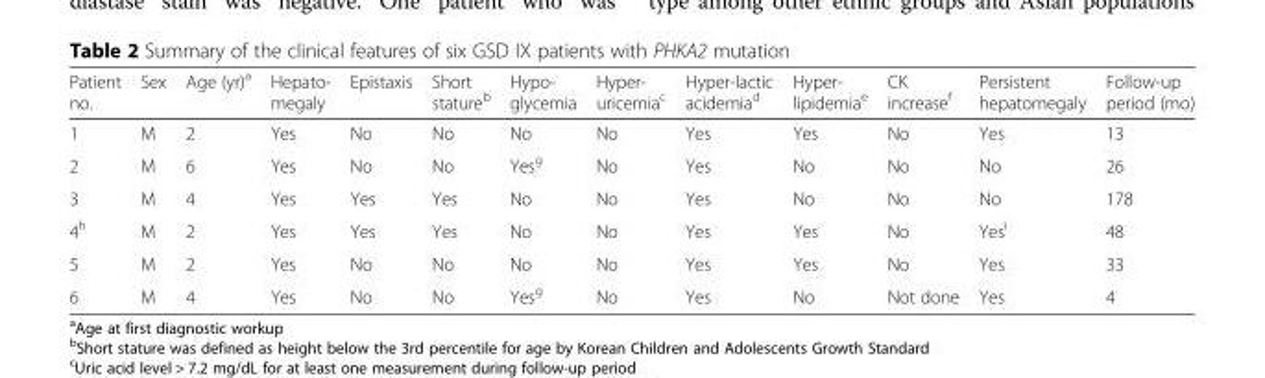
<table><thead><tr><td>Patient no.</td><td>Sex</td><td>Age (yr)<sup>a</sup></td><td>Hepato- megaly</td><td>Epistaxis</td><td>Short stature<sup>b</sup></td><td>Hypo- glycemia</td><td>Hyper- uricemia<sup>c</sup></td><td>Hyper-lactic acidemia<sup>d</sup></td><td>Hyper- lipidemia<sup>e</sup></td><td>CK increase<sup>f</sup></td><td>Persistent hepatomegaly</td><td>Follow-up period (mo)</td></tr></thead><tbody><tr><td>1</td><td>M</td><td>2</td><td>Yes</td><td>No</td><td>No</td><td>No</td><td>No</td><td>Yes</td><td>Yes</td><td>No</td><td>Yes</td><td>13</td></tr><tr><td>2</td><td>M</td><td>6</td><td>Yes</td><td>No</td><td>No</td><td>Yes<sup>g</sup></td><td>No</td><td>Yes</td><td>No</td><td>No</td><td>No</td><td>26</td></tr><tr><td>3</td><td>M</td><td>4</td><td>Yes</td><td>Yes</td><td>Yes</td><td>No</td><td>No</td><td>Yes</td><td>No</td><td>No</td><td>No</td><td>178</td></tr><tr><td>4<sup>h</sup></td><td>M</td><td>2</td><td>Yes</td><td>Yes</td><td>Yes</td><td>No</td><td>No</td><td>Yes</td><td>Yes</td><td>No</td><td>Yes<sup>i</sup></td><td>48</td></tr><tr><td>5</td><td>M</td><td>2</td><td>Yes</td><td>No</td><td>No</td><td>No</td><td>No</td><td>Yes</td><td>Yes</td><td>No</td><td>Yes</td><td>33</td></tr><tr><td>6</td><td>M</td><td>4</td><td>Yes</td><td>No</td><td>No</td><td>Yes<sup>g</sup></td><td>No</td><td>Yes</td><td>No</td><td>Not done</td><td>Yes</td><td>4</td></tr></tbody></table>